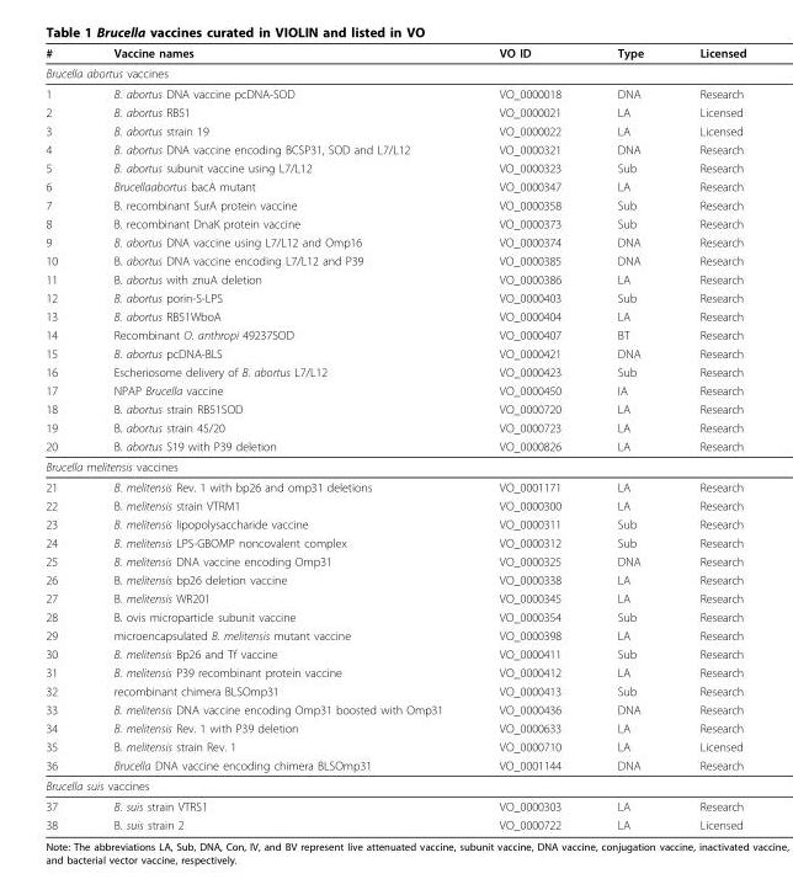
<table><thead><tr><td>#</td><td>Vaccine names</td><td>VO ID</td><td>Type</td><td>Licensed</td></tr></thead><tbody><tr><td colspan="5">Brucella abortus vaccines</td></tr><tr><td>1</td><td>B. abortus DNA vaccine pcDNA-SOD</td><td>VO_0000018</td><td>DNA</td><td>Research</td></tr><tr><td>2</td><td>B. abortus RB51</td><td>VO_0000021</td><td>LA</td><td>Licensed</td></tr><tr><td>3</td><td>B. abortus strain 19</td><td>VO_0000022</td><td>LA</td><td>Licensed</td></tr><tr><td>4</td><td>B. abortus DNA vaccine encoding BCSP31, SOD and L7/L12</td><td>VO_0000321</td><td>DNA</td><td>Research</td></tr><tr><td>5</td><td>B. abortus subunit vaccine using L7/L12</td><td>VO_0000323</td><td>Sub</td><td>Research</td></tr><tr><td>6</td><td>Brucellaabortus bacA mutant</td><td>VO_0000347</td><td>LA</td><td>Research</td></tr><tr><td>7</td><td>B. recombinant SurA protein vaccine</td><td>VO_0000358</td><td>Sub</td><td>Research</td></tr><tr><td>8</td><td>B. recombinant DnaK protein vaccine</td><td>VO_0000373</td><td>Sub</td><td>Research</td></tr><tr><td>9</td><td>B. abortus DNA vaccine using L7/L12 and Omp16</td><td>VO_0000374</td><td>DNA</td><td>Research</td></tr><tr><td>10</td><td>B. abortus DNA vaccine encoding L7/L12 and P39</td><td>VO_0000385</td><td>DNA</td><td>Research</td></tr><tr><td>11</td><td>B. abortus with znuA deletion</td><td>VO_0000386</td><td>LA</td><td>Research</td></tr><tr><td>12</td><td>B. abortus porin-S-LPS</td><td>VO_0000403</td><td>Sub</td><td>Research</td></tr><tr><td>13</td><td>B. abortus RB51WboA</td><td>VO_0000404</td><td>LA</td><td>Research</td></tr><tr><td>14</td><td>Recombinant O. anthropi 49237SOD</td><td>VO_0000407</td><td>BT</td><td>Research</td></tr><tr><td>15</td><td>B. abortus pcDNA-BLS</td><td>VO_0000421</td><td>DNA</td><td>Research</td></tr><tr><td>16</td><td>Escheriosome delivery of B. abortus L7/L12</td><td>VO_0000423</td><td>Sub</td><td>Research</td></tr><tr><td>17</td><td>NPAP Brucella vaccine</td><td>VO_0000450</td><td>IA</td><td>Research</td></tr><tr><td>18</td><td>B. abortus strain RB51SOD</td><td>VO_0000720</td><td>LA</td><td>Research</td></tr><tr><td>19</td><td>B. abortus strain 45/20</td><td>VO_0000723</td><td>LA</td><td>Research</td></tr><tr><td>20</td><td>B. abortus S19 with P39 deletion</td><td>VO_0000826</td><td>LA</td><td>Research</td></tr><tr><td colspan="5">Brucella melitensis vaccines</td></tr><tr><td>21</td><td>B. melitensis Rev. 1 with bp26 and omp31 deletions</td><td>VO_0001171</td><td>LA</td><td>Research</td></tr><tr><td>22</td><td>B. melitensis strain VTRM1</td><td>VO_0000300</td><td>LA</td><td>Research</td></tr><tr><td>23</td><td>B. melitensis lipopolysaccharide vaccine</td><td>VO_0000311</td><td>Sub</td><td>Research</td></tr><tr><td>24</td><td>B. melitensis LPS-GBOMP noncovalent complex</td><td>VO_0000312</td><td>Sub</td><td>Research</td></tr><tr><td>25</td><td>B. melitensis DNA vaccine encoding Omp31</td><td>VO_0000325</td><td>DNA</td><td>Research</td></tr><tr><td>26</td><td>B. melitensis bp26 deletion vaccine</td><td>VO_0000338</td><td>LA</td><td>Research</td></tr><tr><td>27</td><td>B. melitensis WR201</td><td>VO_0000345</td><td>LA</td><td>Research</td></tr><tr><td>28</td><td>B. ovis microparticle subunit vaccine</td><td>VO_0000354</td><td>Sub</td><td>Research</td></tr><tr><td>29</td><td>microencapsulated B. melitensis mutant vaccine</td><td>VO_0000398</td><td>LA</td><td>Research</td></tr><tr><td>30</td><td>B. melitensis Bp26 and Tf vaccine</td><td>VO_0000411</td><td>Sub</td><td>Research</td></tr><tr><td>31</td><td>B. melitensis P39 recombinant protein vaccine</td><td>VO_0000412</td><td>LA</td><td>Research</td></tr><tr><td>32</td><td>recombinant chimera BLSOmp31</td><td>VO_0000413</td><td>Sub</td><td>Research</td></tr><tr><td>33</td><td>B. melitensis DNA vaccine encoding Omp31 boosted with Omp31</td><td>VO_0000436</td><td>DNA</td><td>Research</td></tr><tr><td>34</td><td>B. melitensis Rev. 1 with P39 deletion</td><td>VO_0000633</td><td>LA</td><td>Research</td></tr><tr><td>35</td><td>B. melitensis strain Rev. 1</td><td>VO_0000710</td><td>LA</td><td>Licensed</td></tr><tr><td>36</td><td>Brucella DNA vaccine encoding chimera BLSOmp31</td><td>VO_0001144</td><td>DNA</td><td>Research</td></tr><tr><td colspan="5">Brucella suis vaccines</td></tr><tr><td>37</td><td>B. suis strain VTRS1</td><td>VO_0000303</td><td>LA</td><td>Research</td></tr><tr><td>38</td><td>B. suis strain 2</td><td>VO_0000722</td><td>LA</td><td>Licensed</td></tr></tbody></table>